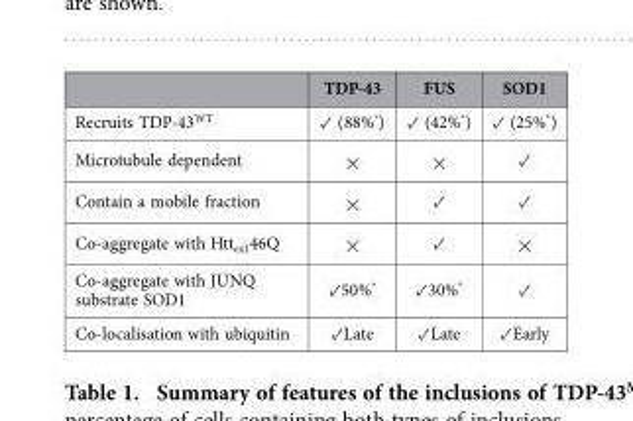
<table><thead><tr><td></td><td>TDP-43</td><td>FUS</td><td>SOD1</td></tr></thead><tbody><tr><td>Recruits TDP-43<sup>WT</sup></td><td>✓ (88%*)</td><td>✓ (42%*)</td><td>✓ (25%*)</td></tr><tr><td>Microtubule dependent</td><td>×</td><td>×</td><td>✓</td></tr><tr><td>Contain a mobile fraction</td><td>×</td><td>✓</td><td>✓</td></tr><tr><td>Co-aggregate with Htt<sub>ex1</sub>46Q</td><td>×</td><td>✓</td><td>×</td></tr><tr><td>Co-aggregate with JUNQ substrate SOD1</td><td>✓50%*</td><td>✓30%*</td><td>✓</td></tr><tr><td>Co-localisation with ubiquitin</td><td>✓Late</td><td>✓Late</td><td>✓Early</td></tr></tbody></table>